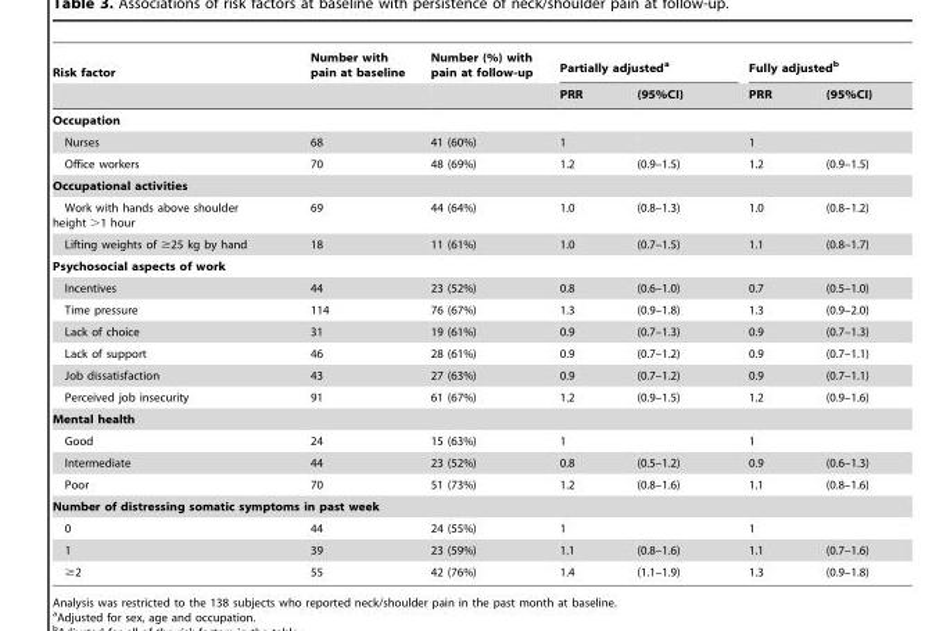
<table><thead><tr><td rowspan="2">Risk factor</td><td rowspan="2">Number with pain at baseline</td><td rowspan="2">Number (%) with pain at follow-up</td><td colspan="2">Partially adjusted<sup>a</sup></td><td colspan="2">Fully adjusted<sup>b</sup></td></tr><tr><td>PRR</td><td>(95%CI)</td><td>PRR</td><td>(95%CI)</td></tr></thead><tbody><tr><td colspan="7">Occupation</td></tr><tr><td>Nurses</td><td>68</td><td>41 (60%)</td><td>1</td><td></td><td>1</td><td></td></tr><tr><td>Office workers</td><td>70</td><td>48 (69%)</td><td>1.2</td><td>(0.9–1.5)</td><td>1.2</td><td>(0.9–1.5)</td></tr><tr><td colspan="7">Occupational activities</td></tr><tr><td>Work with hands above shoulder height &gt;1 hour</td><td>69</td><td>44 (64%)</td><td>1.0</td><td>(0.8–1.3)</td><td>1.0</td><td>(0.8–1.2)</td></tr><tr><td>Lifting weights of ≥25 kg by hand</td><td>18</td><td>11 (61%)</td><td>1.0</td><td>(0.7–1.5)</td><td>1.1</td><td>(0.8–1.7)</td></tr><tr><td colspan="7">Psychosocial aspects of work</td></tr><tr><td>Incentives</td><td>44</td><td>23 (52%)</td><td>0.8</td><td>(0.6–1.0)</td><td>0.7</td><td>(0.5–1.0)</td></tr><tr><td>Time pressure</td><td>114</td><td>76 (67%)</td><td>1.3</td><td>(0.9–1.8)</td><td>1.3</td><td>(0.9–2.0)</td></tr><tr><td>Lack of choice</td><td>31</td><td>19 (61%)</td><td>0.9</td><td>(0.7–1.3)</td><td>0.9</td><td>(0.7–1.3)</td></tr><tr><td>Lack of support</td><td>46</td><td>28 (61%)</td><td>0.9</td><td>(0.7–1.2)</td><td>0.9</td><td>(0.7–1.1)</td></tr><tr><td>Job dissatisfaction</td><td>43</td><td>27 (63%)</td><td>0.9</td><td>(0.7–1.2)</td><td>0.9</td><td>(0.7–1.1)</td></tr><tr><td>Perceived job insecurity</td><td>91</td><td>61 (67%)</td><td>1.2</td><td>(0.9–1.5)</td><td>1.2</td><td>(0.9–1.6)</td></tr><tr><td colspan="7">Mental health</td></tr><tr><td>Good</td><td>24</td><td>15 (63%)</td><td>1</td><td></td><td>1</td><td></td></tr><tr><td>Intermediate</td><td>44</td><td>23 (52%)</td><td>0.8</td><td>(0.5–1.2)</td><td>0.9</td><td>(0.6–1.3)</td></tr><tr><td>Poor</td><td>70</td><td>51 (73%)</td><td>1.2</td><td>(0.8–1.6)</td><td>1.1</td><td>(0.8–1.6)</td></tr><tr><td colspan="7">Number of distressing somatic symptoms in past week</td></tr><tr><td>0</td><td>44</td><td>24 (55%)</td><td>1</td><td></td><td>1</td><td></td></tr><tr><td>1</td><td>39</td><td>23 (59%)</td><td>1.1</td><td>(0.8–1.6)</td><td>1.1</td><td>(0.7–1.6)</td></tr><tr><td>≥2</td><td>55</td><td>42 (76%)</td><td>1.4</td><td>(1.1–1.9)</td><td>1.3</td><td>(0.9–1.8)</td></tr></tbody></table>